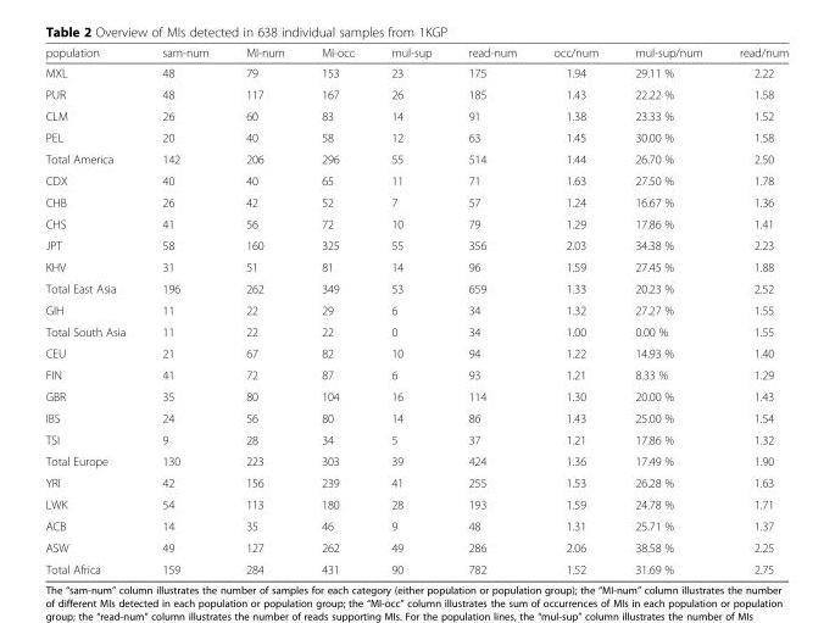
<table><thead><tr><td>population</td><td>sam-num</td><td>MI-num</td><td>MI-occ</td><td>mul-sup</td><td>read-num</td><td>occ/num</td><td>mul-sup/num</td><td>read/num</td></tr></thead><tbody><tr><td>MXL</td><td>48</td><td>79</td><td>153</td><td>23</td><td>175</td><td>1.94</td><td>29.11 %</td><td>2.22</td></tr><tr><td>PUR</td><td>48</td><td>117</td><td>167</td><td>26</td><td>185</td><td>1.43</td><td>22.22 %</td><td>1.58</td></tr><tr><td>CLM</td><td>26</td><td>60</td><td>83</td><td>14</td><td>91</td><td>1.38</td><td>23.33 %</td><td>1.52</td></tr><tr><td>PEL</td><td>20</td><td>40</td><td>58</td><td>12</td><td>63</td><td>1.45</td><td>30.00 %</td><td>1.58</td></tr><tr><td>Total America</td><td>142</td><td>206</td><td>296</td><td>55</td><td>514</td><td>1.44</td><td>26.70 %</td><td>2.50</td></tr><tr><td>CDX</td><td>40</td><td>40</td><td>65</td><td>11</td><td>71</td><td>1.63</td><td>27.50 %</td><td>1.78</td></tr><tr><td>CHB</td><td>26</td><td>42</td><td>52</td><td>7</td><td>57</td><td>1.24</td><td>16.67 %</td><td>1.36</td></tr><tr><td>CHS</td><td>41</td><td>56</td><td>72</td><td>10</td><td>79</td><td>1.29</td><td>17.86 %</td><td>1.41</td></tr><tr><td>JPT</td><td>58</td><td>160</td><td>325</td><td>55</td><td>356</td><td>2.03</td><td>34.38 %</td><td>2.23</td></tr><tr><td>KHV</td><td>31</td><td>51</td><td>81</td><td>14</td><td>96</td><td>1.59</td><td>27.45 %</td><td>1.88</td></tr><tr><td>Total East Asia</td><td>196</td><td>262</td><td>349</td><td>53</td><td>659</td><td>1.33</td><td>20.23 %</td><td>2.52</td></tr><tr><td>GIH</td><td>11</td><td>22</td><td>29</td><td>6</td><td>34</td><td>1.32</td><td>27.27 %</td><td>1.55</td></tr><tr><td>Total South Asia</td><td>11</td><td>22</td><td>22</td><td>0</td><td>34</td><td>1.00</td><td>0.00 %</td><td>1.55</td></tr><tr><td>CEU</td><td>21</td><td>67</td><td>82</td><td>10</td><td>94</td><td>1.22</td><td>14.93 %</td><td>1.40</td></tr><tr><td>FIN</td><td>41</td><td>72</td><td>87</td><td>6</td><td>93</td><td>1.21</td><td>8.33 %</td><td>1.29</td></tr><tr><td>GBR</td><td>35</td><td>80</td><td>104</td><td>16</td><td>114</td><td>1.30</td><td>20.00 %</td><td>1.43</td></tr><tr><td>IBS</td><td>24</td><td>56</td><td>80</td><td>14</td><td>86</td><td>1.43</td><td>25.00 %</td><td>1.54</td></tr><tr><td>TSI</td><td>9</td><td>28</td><td>34</td><td>5</td><td>37</td><td>1.21</td><td>17.86 %</td><td>1.32</td></tr><tr><td>Total Europe</td><td>130</td><td>223</td><td>303</td><td>39</td><td>424</td><td>1.36</td><td>17.49 %</td><td>1.90</td></tr><tr><td>YRI</td><td>42</td><td>156</td><td>239</td><td>41</td><td>255</td><td>1.53</td><td>26.28 %</td><td>1.63</td></tr><tr><td>LWK</td><td>54</td><td>113</td><td>180</td><td>28</td><td>193</td><td>1.59</td><td>24.78 %</td><td>1.71</td></tr><tr><td>ACB</td><td>14</td><td>35</td><td>46</td><td>9</td><td>48</td><td>1.31</td><td>25.71 %</td><td>1.37</td></tr><tr><td>ASW</td><td>49</td><td>127</td><td>262</td><td>49</td><td>286</td><td>2.06</td><td>38.58 %</td><td>2.25</td></tr><tr><td>Total Africa</td><td>159</td><td>284</td><td>431</td><td>90</td><td>782</td><td>1.52</td><td>31.69 %</td><td>2.75</td></tr></tbody></table>